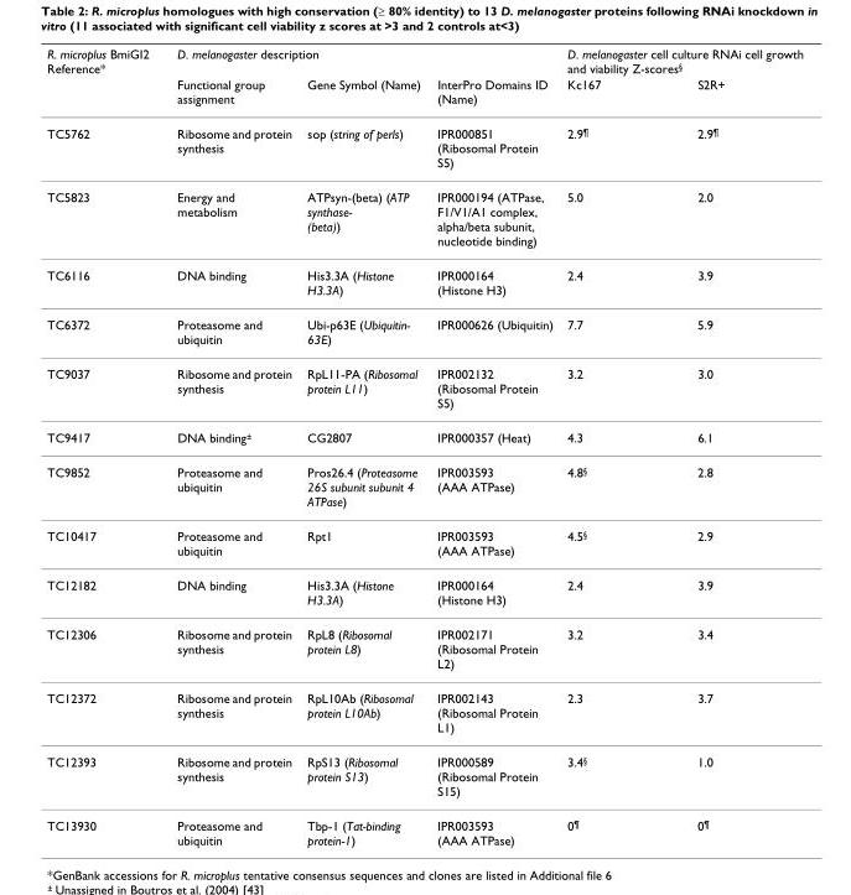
<table><thead><tr><td rowspan="2">R. microplus BmiGI2 Reference*</td><td colspan="3">D. melanogaster description</td><td colspan="2">D. melanogaster cell culture RNAi cell growth and viability Z-scores<sup>§</sup></td></tr><tr><td>Functional group assignment</td><td>Gene Symbol (Name)</td><td>InterPro Domains ID (Name)</td><td>Kc167</td><td>S2R+</td></tr></thead><tbody><tr><td>TC5762</td><td>Ribosome and protein synthesis</td><td>sop (string of perls)</td><td>IPR000851 (Ribosomal Protein S5)</td><td>2.9<sup>¶</sup></td><td>2.9<sup>¶</sup></td></tr><tr><td>TC5823</td><td>Energy and metabolism</td><td>ATPsyn-(beta) (ATP synthase- (beta))</td><td>IPR000194 (ATPase, F1/V1/A1 complex, alpha/beta subunit, nucleotide binding)</td><td>5.0</td><td>2.0</td></tr><tr><td>TC6116</td><td>DNA binding</td><td>His3.3A (Histone H3.3A)</td><td>IPR000164 (Histone H3)</td><td>2.4</td><td>3.9</td></tr><tr><td>TC6372</td><td>Proteasome and ubiquitin</td><td>Ubi-p63E (Ubiquitin- 63E)</td><td>IPR000626 (Ubiquitin)</td><td>7.7</td><td>5.9</td></tr><tr><td>TC9037</td><td>Ribosome and protein synthesis</td><td>RpL11-PA (Ribosomal protein L11)</td><td>IPR002132 (Ribosomal Protein S5)</td><td>3.2</td><td>3.0</td></tr><tr><td>TC9417</td><td>DNA binding<sup>±</sup></td><td>CG2807</td><td>IPR000357 (Heat)</td><td>4.3</td><td>6.1</td></tr><tr><td>TC9852</td><td>Proteasome and ubiquitin</td><td>Pros26.4 (Proteasome 26S subunit subunit 4 ATPase)</td><td>IPR003593 (AAA ATPase)</td><td>4.8<sup>§</sup></td><td>2.8</td></tr><tr><td>TC10417</td><td>Proteasome and ubiquitin</td><td>Rpt1</td><td>IPR003593 (AAA ATPase)</td><td>4.5<sup>§</sup></td><td>2.9</td></tr><tr><td>TC12182</td><td>DNA binding</td><td>His3.3A (Histone H3.3A)</td><td>IPR000164 (Histone H3)</td><td>2.4</td><td>3.9</td></tr><tr><td>TC12306</td><td>Ribosome and protein synthesis</td><td>RpL8 (Ribosomal protein L8)</td><td>IPR002171 (Ribosomal Protein L2)</td><td>3.2</td><td>3.4</td></tr><tr><td>TC12372</td><td>Ribosome and protein synthesis</td><td>RpL10Ab (Ribosomal protein L10Ab)</td><td>IPR002143 (Ribosomal Protein L1)</td><td>2.3</td><td>3.7</td></tr><tr><td>TC12393</td><td>Ribosome and protein synthesis</td><td>RpS13 (Ribosomal protein S13)</td><td>IPR000589 (Ribosomal Protein S15)</td><td>3.4<sup>§</sup></td><td>1.0</td></tr><tr><td>TC13930</td><td>Proteasome and ubiquitin</td><td>Tbp-1 (Tat-binding protein-1)</td><td>IPR003593 (AAA ATPase)</td><td>0<sup>¶</sup></td><td>0<sup>¶</sup></td></tr></tbody></table>